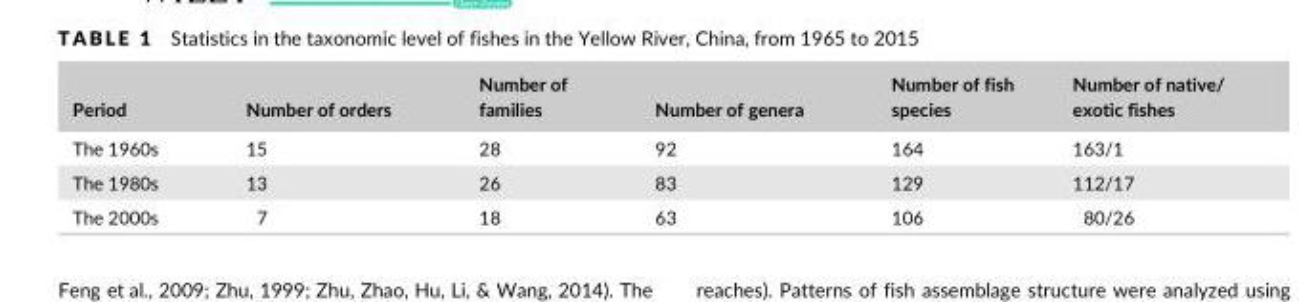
<table><thead><tr><td>Period</td><td>Number of orders</td><td>Number of families</td><td>Number of genera</td><td>Number of fish species</td><td>Number of native/ exotic fishes</td></tr></thead><tbody><tr><td>The 1960s</td><td>15</td><td>28</td><td>92</td><td>164</td><td>163/1</td></tr><tr><td>The 1980s</td><td>13</td><td>26</td><td>83</td><td>129</td><td>112/17</td></tr><tr><td>The 2000s</td><td>7</td><td>18</td><td>63</td><td>106</td><td>80/26</td></tr></tbody></table>